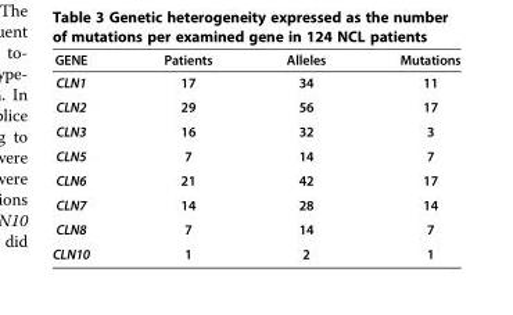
<table><thead><tr><td>GENE</td><td>Patients</td><td>Alleles</td><td>Mutations</td></tr></thead><tbody><tr><td>CLN1</td><td>17</td><td>34</td><td>11</td></tr><tr><td>CLN2</td><td>29</td><td>56</td><td>17</td></tr><tr><td>CLN3</td><td>16</td><td>32</td><td>3</td></tr><tr><td>CLN5</td><td>7</td><td>14</td><td>7</td></tr><tr><td>CLN6</td><td>21</td><td>42</td><td>17</td></tr><tr><td>CLN7</td><td>14</td><td>28</td><td>14</td></tr><tr><td>CLN8</td><td>7</td><td>14</td><td>7</td></tr><tr><td>CLN10</td><td>1</td><td>2</td><td>1</td></tr></tbody></table>